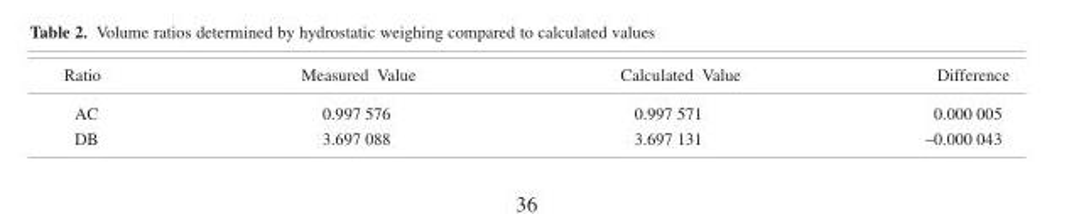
<table><thead><tr><td>Ratio</td><td>Measured Value</td><td>Calculated Value</td><td>Difference</td></tr></thead><tbody><tr><td>AC</td><td>0.997 576</td><td>0.997 571</td><td>0.000 005</td></tr><tr><td>DB</td><td>3.697 088</td><td>3.697 131</td><td>–0.000 043</td></tr></tbody></table>